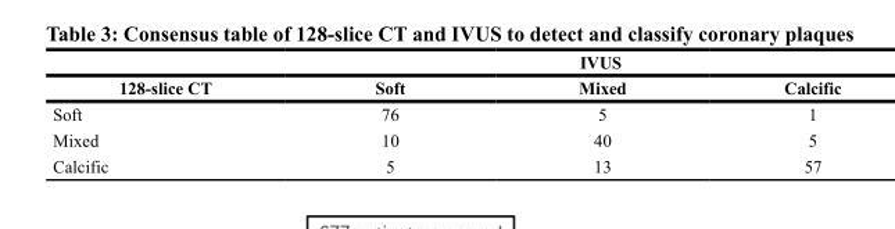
<table><thead><tr><td rowspan="2">128-slice CT</td><td colspan="3">IVUS</td></tr><tr><td>Soft</td><td>Mixed</td><td>Calcific</td></tr></thead><tbody><tr><td>Soft</td><td>76</td><td>5</td><td>1</td></tr><tr><td>Mixed</td><td>10</td><td>40</td><td>5</td></tr><tr><td>Calcific</td><td>5</td><td>13</td><td>57</td></tr></tbody></table>